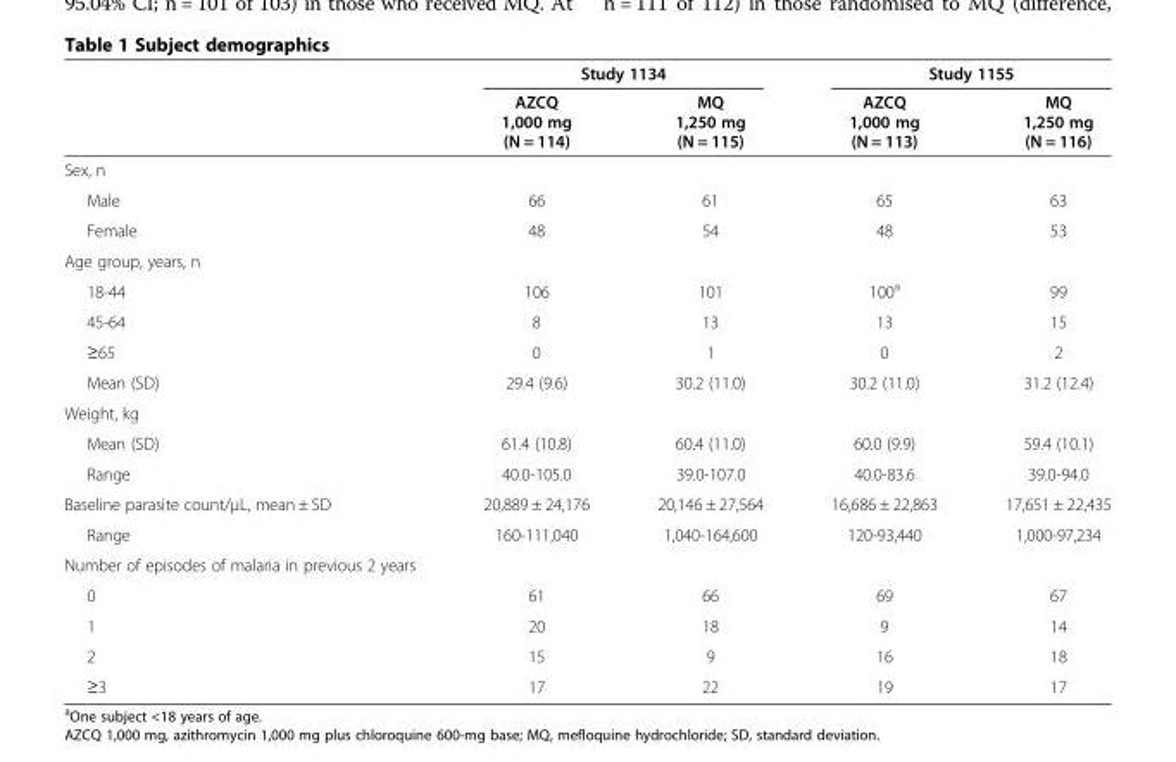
<table><thead><tr><td rowspan="2"></td><td colspan="2">Study 1134</td><td colspan="2">Study 1155</td></tr><tr><td>AZCQ 1,000 mg (N = 114)</td><td>MQ 1,250 mg (N = 115)</td><td>AZCQ 1,000 mg (N = 113)</td><td>MQ 1,250 mg (N = 116)</td></tr></thead><tbody><tr><td colspan="5">Sex, n</td></tr><tr><td>Male</td><td>66</td><td>61</td><td>65</td><td>63</td></tr><tr><td>Female</td><td>48</td><td>54</td><td>48</td><td>53</td></tr><tr><td colspan="5">Age group, years, n</td></tr><tr><td>18-44</td><td>106</td><td>101</td><td>100<sup>a</sup></td><td>99</td></tr><tr><td>45-64</td><td>8</td><td>13</td><td>13</td><td>15</td></tr><tr><td>≥65</td><td>0</td><td>1</td><td>0</td><td>2</td></tr><tr><td>Mean (SD)</td><td>29.4 (9.6)</td><td>30.2 (11.0)</td><td>30.2 (11.0)</td><td>31.2 (12.4)</td></tr><tr><td colspan="5">Weight, kg</td></tr><tr><td>Mean (SD)</td><td>61.4 (10.8)</td><td>60.4 (11.0)</td><td>60.0 (9.9)</td><td>59.4 (10.1)</td></tr><tr><td>Range</td><td>40.0-105.0</td><td>39.0-107.0</td><td>40.0-83.6</td><td>39.0-94.0</td></tr><tr><td>Baseline parasite count/μL, mean ± SD</td><td>20,889 ± 24,176</td><td>20,146 ± 27,564</td><td>16,686 ± 22,863</td><td>17,651 ± 22,435</td></tr><tr><td>Range</td><td>160-111,040</td><td>1,040-164,600</td><td>120-93,440</td><td>1,000-97,234</td></tr><tr><td colspan="5">Number of episodes of malaria in previous 2 years</td></tr><tr><td>0</td><td>61</td><td>66</td><td>69</td><td>67</td></tr><tr><td>1</td><td>20</td><td>18</td><td>9</td><td>14</td></tr><tr><td>2</td><td>15</td><td>9</td><td>16</td><td>18</td></tr><tr><td>≥3</td><td>17</td><td>22</td><td>19</td><td>17</td></tr></tbody></table>